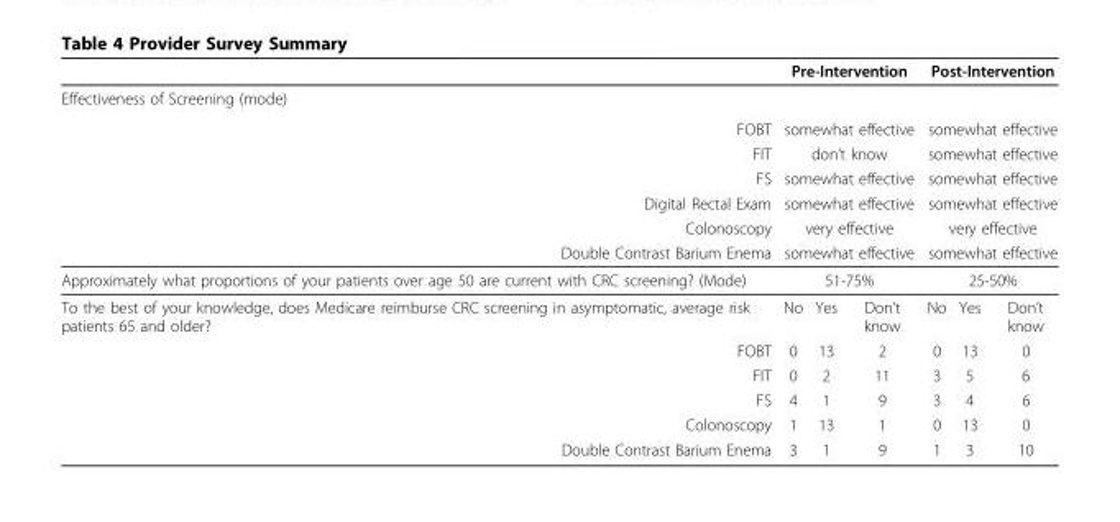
<table><thead><tr><td></td><td colspan="3">Pre-Intervention</td><td colspan="3">Post-Intervention</td></tr></thead><tbody><tr><td colspan="7">Effectiveness of Screening (mode)</td></tr><tr><td>FOBT</td><td colspan="3">somewhat effective</td><td colspan="3">somewhat effective</td></tr><tr><td>FIT</td><td colspan="3">don’t know</td><td colspan="3">somewhat effective</td></tr><tr><td>FS</td><td colspan="3">somewhat effective</td><td colspan="3">somewhat effective</td></tr><tr><td>Digital Rectal Exam</td><td colspan="3">somewhat effective</td><td colspan="3">somewhat effective</td></tr><tr><td>Colonoscopy</td><td colspan="3">very effective</td><td colspan="3">very effective</td></tr><tr><td>Double Contrast Barium Enema</td><td colspan="3">somewhat effective</td><td colspan="3">somewhat effective</td></tr><tr><td>Approximately what proportions of your patients over age 50 are current with CRC screening? (Mode)</td><td colspan="3">51-75%</td><td colspan="3">25-50%</td></tr><tr><td>To the best of your knowledge, does Medicare reimburse CRC screening in asymptomatic, average risk patients 65 and older?</td><td>No</td><td>Yes</td><td>Don’t know</td><td>No</td><td>Yes</td><td>Don’t know</td></tr><tr><td>FOBT</td><td>0</td><td>13</td><td>2</td><td>0</td><td>13</td><td>0</td></tr><tr><td>FIT</td><td>0</td><td>2</td><td>11</td><td>3</td><td>5</td><td>6</td></tr><tr><td>FS</td><td>4</td><td>1</td><td>9</td><td>3</td><td>4</td><td>6</td></tr><tr><td>Colonoscopy</td><td>1</td><td>13</td><td>1</td><td>0</td><td>13</td><td>0</td></tr><tr><td>Double Contrast Barium Enema</td><td>3</td><td>1</td><td>9</td><td>1</td><td>3</td><td>10</td></tr></tbody></table>